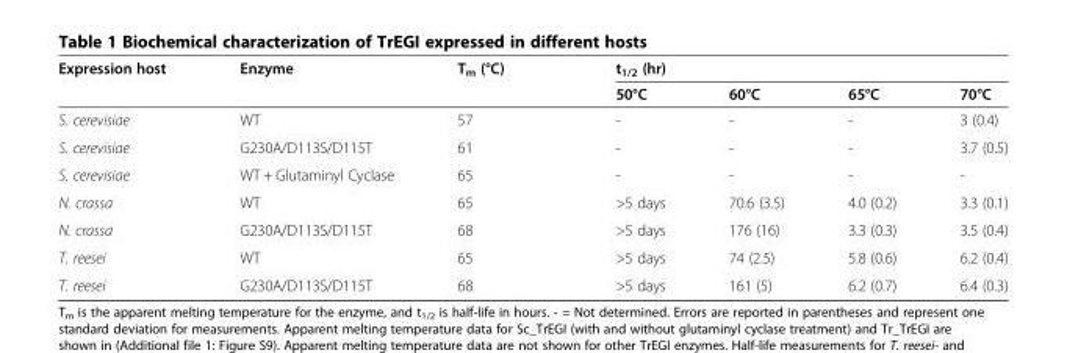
<table><thead><tr><td rowspan="2">Expression host</td><td rowspan="2">Enzyme</td><td rowspan="2">T<sub>m</sub> (°C)</td><td colspan="4">t<sub>1/2</sub> (hr)</td></tr><tr><td>50°C</td><td>60°C</td><td>65°C</td><td>70°C</td></tr></thead><tbody><tr><td>S. cerevisiae</td><td>WT</td><td>57</td><td>-</td><td>-</td><td>-</td><td>3 (0.4)</td></tr><tr><td>S. cerevisiae</td><td>G230A/D113S/D115T</td><td>61</td><td>-</td><td>-</td><td>-</td><td>3.7 (0.5)</td></tr><tr><td>S. cerevisiae</td><td>WT + Glutaminyl Cyclase</td><td>65</td><td>-</td><td>-</td><td>-</td><td>-</td></tr><tr><td>N. crassa</td><td>WT</td><td>65</td><td>&gt;5 days</td><td>70.6 (3.5)</td><td>4.0 (0.2)</td><td>3.3 (0.1)</td></tr><tr><td>N. crassa</td><td>G230A/D113S/D115T</td><td>68</td><td>&gt;5 days</td><td>176 (16)</td><td>3.3 (0.3)</td><td>3.5 (0.4)</td></tr><tr><td>T. reesei</td><td>WT</td><td>65</td><td>&gt;5 days</td><td>74 (2.5)</td><td>5.8 (0.6)</td><td>6.2 (0.4)</td></tr><tr><td>T. reesei</td><td>G230A/D113S/D115T</td><td>68</td><td>&gt;5 days</td><td>161 (5)</td><td>6.2 (0.7)</td><td>6.4 (0.3)</td></tr></tbody></table>